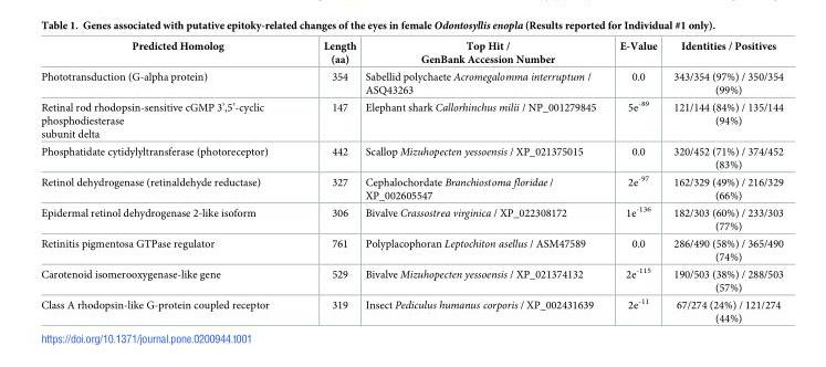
<table><thead><tr><td>Predicted Homolog</td><td>Length (aa)</td><td>Top Hit / GenBank Accession Number</td><td>E-Value</td><td>Identities / Positives</td></tr></thead><tbody><tr><td>Phototransduction (G-alpha protein)</td><td>354</td><td>Sabellid polychaete Acromegalomma interruptum / ASQ43263</td><td>0.0</td><td>343/354 (97%) / 350/354 (99%)</td></tr><tr><td>Retinal rod rhodopsin-sensitive cGMP 3’,5’-cyclic phosphodiesterase subunit delta</td><td>147</td><td>Elephant shark Callorhinchus milii / NP_001279845</td><td>5e<sup>-89</sup></td><td>121/144 (84%) / 135/144 (94%)</td></tr><tr><td>Phosphatidate cytidylyltransferase (photoreceptor)</td><td>442</td><td>Scallop Mizuhopecten yessoensis / XP_021375015</td><td>0.0</td><td>320/452 (71%) / 374/452 (83%)</td></tr><tr><td>Retinol dehydrogenase (retinaldehyde reductase)</td><td>327</td><td>Cephalochordate Branchiostoma floridae / XP_002605547</td><td>2e<sup>-97</sup></td><td>162/329 (49%) / 216/329 (66%)</td></tr><tr><td>Epidermal retinol dehydrogenase 2-like isoform</td><td>306</td><td>Bivalve Crassostrea virginica / XP_022308172</td><td>1e<sup>-136</sup></td><td>182/303 (60%) / 233/303 (77%)</td></tr><tr><td>Retinitis pigmentosa GTPase regulator</td><td>761</td><td>Polyplacophoran Leptochiton asellus / ASM47589</td><td>0.0</td><td>286/490 (58%) / 365/490 (74%)</td></tr><tr><td>Carotenoid isomerooxygenase-like gene</td><td>529</td><td>Bivalve Mizuhopecten yessoensis / XP_021374132</td><td>2e<sup>-115</sup></td><td>190/503 (38%) / 288/503 (57%)</td></tr><tr><td>Class A rhodopsin-like G-protein coupled receptor</td><td>319</td><td>Insect Pediculus humanus corporis / XP_002431639</td><td>2e<sup>-11</sup></td><td>67/274 (24%) / 121/274 (44%)</td></tr></tbody></table>